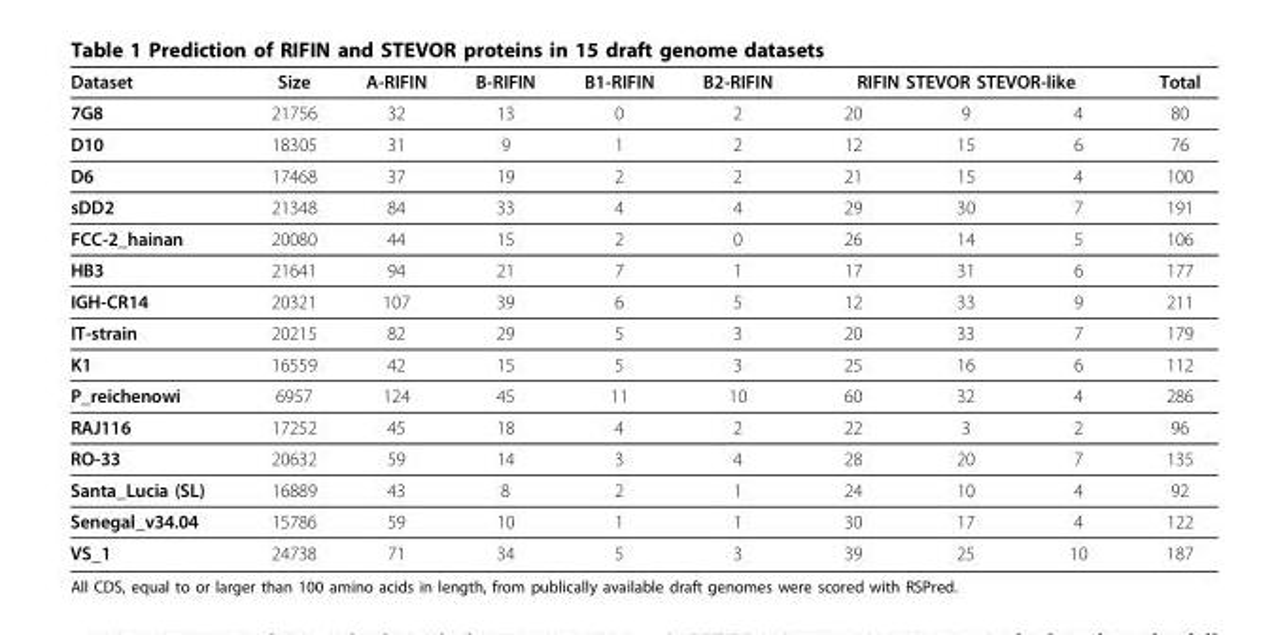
<table><thead><tr><td rowspan="2">Dataset 7G8</td><td rowspan="2">Size 21756</td><td rowspan="2">A-RIFIN 32</td><td rowspan="2">B-RIFIN 13</td><td rowspan="2">B1-RIFIN 0</td><td rowspan="2">B2-RIFIN 2</td><td colspan="3">RIFIN STEVOR STEVOR-like</td><td rowspan="2">Total 80</td></tr><tr><td>20</td><td>9</td><td>4</td></tr></thead><tbody><tr><td>D10</td><td>18305</td><td>31</td><td>9</td><td>1</td><td>2</td><td>12</td><td>15</td><td>6</td><td>76</td></tr><tr><td>D6</td><td>17468</td><td>37</td><td>19</td><td>2</td><td>2</td><td>21</td><td>15</td><td>4</td><td>100</td></tr><tr><td>sDD2</td><td>21348</td><td>84</td><td>33</td><td>4</td><td>4</td><td>29</td><td>30</td><td>7</td><td>191</td></tr><tr><td>FCC-2_hainan</td><td>20080</td><td>44</td><td>15</td><td>2</td><td>0</td><td>26</td><td>14</td><td>5</td><td>106</td></tr><tr><td>HB3</td><td>21641</td><td>94</td><td>21</td><td>7</td><td>1</td><td>17</td><td>31</td><td>6</td><td>177</td></tr><tr><td>IGH-CR14</td><td>20321</td><td>107</td><td>39</td><td>6</td><td>5</td><td>12</td><td>33</td><td>9</td><td>211</td></tr><tr><td>IT-strain</td><td>20215</td><td>82</td><td>29</td><td>5</td><td>3</td><td>20</td><td>33</td><td>7</td><td>179</td></tr><tr><td>K1</td><td>16559</td><td>42</td><td>15</td><td>5</td><td>3</td><td>25</td><td>16</td><td>6</td><td>112</td></tr><tr><td>P_reichenowi</td><td>6957</td><td>124</td><td>45</td><td>11</td><td>10</td><td>60</td><td>32</td><td>4</td><td>286</td></tr><tr><td>RAJ116</td><td>17252</td><td>45</td><td>18</td><td>4</td><td>2</td><td>22</td><td>3</td><td>2</td><td>96</td></tr><tr><td>RO-33</td><td>20632</td><td>59</td><td>14</td><td>3</td><td>4</td><td>28</td><td>20</td><td>7</td><td>135</td></tr><tr><td>Santa_Lucia (SL)</td><td>16889</td><td>43</td><td>8</td><td>2</td><td>1</td><td>24</td><td>10</td><td>4</td><td>92</td></tr><tr><td>Senegal_v34.04</td><td>15786</td><td>59</td><td>10</td><td>1</td><td>1</td><td>30</td><td>17</td><td>4</td><td>122</td></tr><tr><td>VS_1</td><td>24738</td><td>71</td><td>34</td><td>5</td><td>3</td><td>39</td><td>25</td><td>10</td><td>187</td></tr></tbody></table>